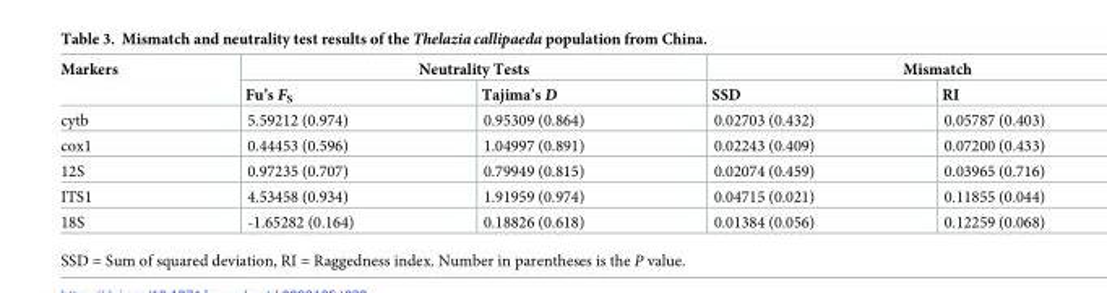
<table><thead><tr><td rowspan="2">Markers</td><td colspan="2">Neutrality Tests</td><td colspan="2">Mismatch</td></tr><tr><td>Fu’s F<sub>S</sub></td><td>Tajima’s D</td><td>SSD</td><td>RI</td></tr></thead><tbody><tr><td>cytb</td><td>5.59212 (0.974)</td><td>0.95309 (0.864)</td><td>0.02703 (0.432)</td><td>0.05787 (0.403)</td></tr><tr><td>cox1</td><td>0.44453 (0.596)</td><td>1.04997 (0.891)</td><td>0.02243 (0.409)</td><td>0.07200 (0.433)</td></tr><tr><td>12S</td><td>0.97235 (0.707)</td><td>0.79949 (0.815)</td><td>0.02074 (0.459)</td><td>0.03965 (0.716)</td></tr><tr><td>ITS1</td><td>4.53458 (0.934)</td><td>1.91959 (0.974)</td><td>0.04715 (0.021)</td><td>0.11855 (0.044)</td></tr><tr><td>18S</td><td>-1.65282 (0.164)</td><td>0.18826 (0.618)</td><td>0.01384 (0.056)</td><td>0.12259 (0.068)</td></tr></tbody></table>